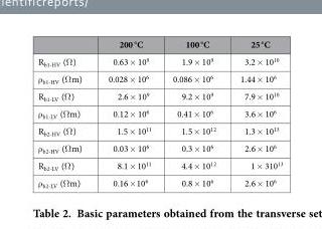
<table><thead><tr><td></td><td>200 °C</td><td>100 °C</td><td>25 °C</td></tr></thead><tbody><tr><td>R<sub>b1-HV</sub> (Ω )</td><td>0.63 × 10<sup>9</sup></td><td>1.9 × 10<sup>9</sup></td><td>3.2 × 10<sup>10</sup></td></tr><tr><td>ρ <sub>b1-HV</sub> (Ω m)</td><td>0.028 × 10<sup>6</sup></td><td>0.086 × 10<sup>6</sup></td><td>1.44 × 10<sup>6</sup></td></tr><tr><td>R<sub>b1-LV</sub> (Ω )</td><td>2.6 × 10<sup>9</sup></td><td>9.2 × 10<sup>9</sup></td><td>7.9 × 10<sup>10</sup></td></tr><tr><td>ρ <sub>b1-LV</sub> (Ω m)</td><td>0.12 × 10<sup>6</sup></td><td>0.41 × 10<sup>6</sup></td><td>3.6 × 10<sup>6</sup></td></tr><tr><td>R<sub>b2-HV</sub> (Ω )</td><td>1.5 × 10<sup>11</sup></td><td>1.5 × 10<sup>12</sup></td><td>1.3 × 10<sup>13</sup></td></tr><tr><td>ρ <sub>b2-HV</sub> (Ω m)</td><td>0.03 × 10<sup>6</sup></td><td>0.3 × 10<sup>6</sup></td><td>2.6 × 10<sup>6</sup></td></tr><tr><td>R<sub>b2-LV</sub> (Ω )</td><td>8.1 × 10<sup>11</sup></td><td>4.4 × 10<sup>12</sup></td><td>1 × 310<sup>13</sup></td></tr><tr><td>ρ <sub>b2-LV</sub> (Ω m)</td><td>0.16 × 10<sup>6</sup></td><td>0.8 × 10<sup>6</sup></td><td>2.6 × 10<sup>6</sup></td></tr></tbody></table>